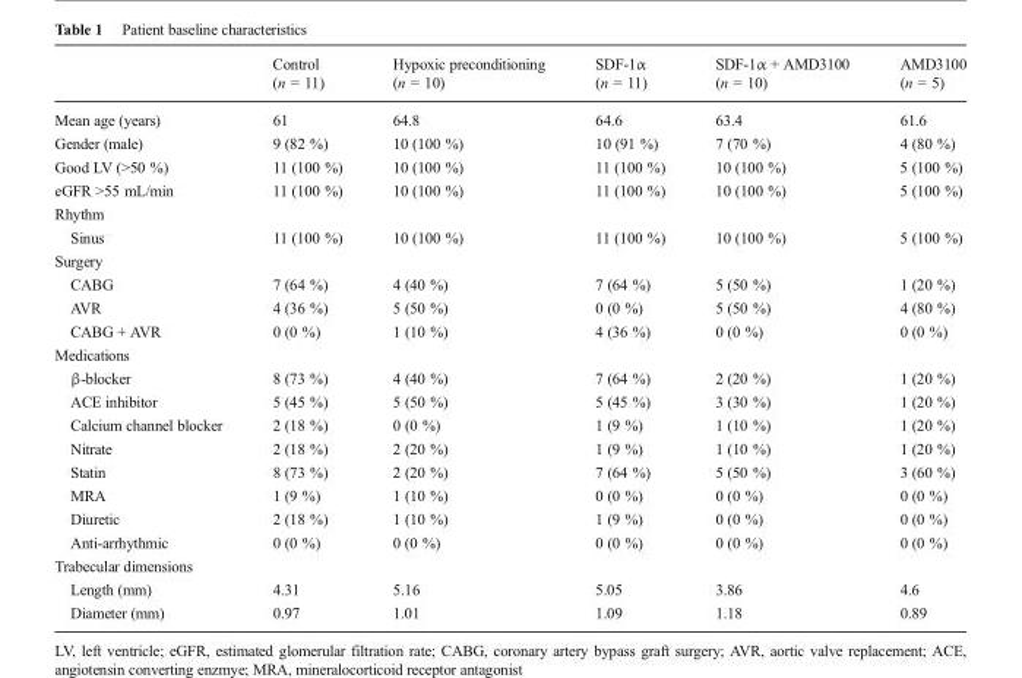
<table><thead><tr><td></td><td>Control (n = 11)</td><td>Hypoxic preconditioning (n = 10)</td><td>SDF-1α (n = 11)</td><td>SDF-1α + AMD3100 (n = 10)</td><td>AMD3100 (n = 5)</td></tr></thead><tbody><tr><td>Mean age (years)</td><td>61</td><td>64.8</td><td>64.6</td><td>63.4</td><td>61.6</td></tr><tr><td>Gender (male)</td><td>9 (82 %)</td><td>10 (100 %)</td><td>10 (91 %)</td><td>7 (70 %)</td><td>4 (80 %)</td></tr><tr><td>Good LV (&gt;50 %)</td><td>11 (100 %)</td><td>10 (100 %)</td><td>11 (100 %)</td><td>10 (100 %)</td><td>5 (100 %)</td></tr><tr><td>eGFR &gt;55 mL/min</td><td>11 (100 %)</td><td>10 (100 %)</td><td>11 (100 %)</td><td>10 (100 %)</td><td>5 (100 %)</td></tr><tr><td colspan="6">Rhythm</td></tr><tr><td>Sinus</td><td>11 (100 %)</td><td>10 (100 %)</td><td>11 (100 %)</td><td>10 (100 %)</td><td>5 (100 %)</td></tr><tr><td colspan="6">Surgery</td></tr><tr><td>CABG</td><td>7 (64 %)</td><td>4 (40 %)</td><td>7 (64 %)</td><td>5 (50 %)</td><td>1 (20 %)</td></tr><tr><td>AVR</td><td>4 (36 %)</td><td>5 (50 %)</td><td>0 (0 %)</td><td>5 (50 %)</td><td>4 (80 %)</td></tr><tr><td>CABG + AVR</td><td>0 (0 %)</td><td>1 (10 %)</td><td>4 (36 %)</td><td>0 (0 %)</td><td>0 (0 %)</td></tr><tr><td colspan="6">Medications</td></tr><tr><td>β-blocker</td><td>8 (73 %)</td><td>4 (40 %)</td><td>7 (64 %)</td><td>2 (20 %)</td><td>1 (20 %)</td></tr><tr><td>ACE inhibitor</td><td>5 (45 %)</td><td>5 (50 %)</td><td>5 (45 %)</td><td>3 (30 %)</td><td>1 (20 %)</td></tr><tr><td>Calcium channel blocker</td><td>2 (18 %)</td><td>0 (0 %)</td><td>1 (9 %)</td><td>1 (10 %)</td><td>1 (20 %)</td></tr><tr><td>Nitrate</td><td>2 (18 %)</td><td>2 (20 %)</td><td>1 (9 %)</td><td>1 (10 %)</td><td>1 (20 %)</td></tr><tr><td>Statin</td><td>8 (73 %)</td><td>2 (20 %)</td><td>7 (64 %)</td><td>5 (50 %)</td><td>3 (60 %)</td></tr><tr><td>MRA</td><td>1 (9 %)</td><td>1 (10 %)</td><td>0 (0 %)</td><td>0 (0 %)</td><td>0 (0 %)</td></tr><tr><td>Diuretic</td><td>2 (18 %)</td><td>1 (10 %)</td><td>1 (9 %)</td><td>0 (0 %)</td><td>0 (0 %)</td></tr><tr><td>Anti-arrhythmic</td><td>0 (0 %)</td><td>0 (0 %)</td><td>0 (0 %)</td><td>0 (0 %)</td><td>0 (0 %)</td></tr><tr><td colspan="6">Trabecular dimensions</td></tr><tr><td>Length (mm)</td><td>4.31</td><td>5.16</td><td>5.05</td><td>3.86</td><td>4.6</td></tr><tr><td>Diameter (mm)</td><td>0.97</td><td>1.01</td><td>1.09</td><td>1.18</td><td>0.89</td></tr></tbody></table>